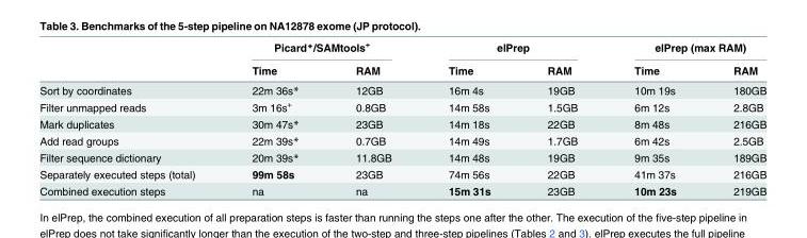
<table><thead><tr><td rowspan="2"></td><td colspan="2">Picard*/SAMtools<sup>+</sup></td><td colspan="2">elPrep</td><td colspan="2">elPrep (max RAM)</td></tr><tr><td>Time</td><td>RAM</td><td>Time</td><td>RAM</td><td>Time</td><td>RAM</td></tr></thead><tbody><tr><td>Sort by coordinates</td><td>22m 36s*</td><td>12GB</td><td>16m 4s</td><td>19GB</td><td>10m 19s</td><td>180GB</td></tr><tr><td>Filter unmapped reads</td><td>3m 16s<sup>+</sup></td><td>0.8GB</td><td>14m 58s</td><td>1.5GB</td><td>6m 12s</td><td>2.8GB</td></tr><tr><td>Mark duplicates</td><td>30m 47s*</td><td>23GB</td><td>14m 18s</td><td>22GB</td><td>8m 48s</td><td>216GB</td></tr><tr><td>Add read groups</td><td>22m 39s*</td><td>0.7GB</td><td>14m 49s</td><td>1.7GB</td><td>6m 42s</td><td>2.5GB</td></tr><tr><td>Filter sequence dictionary</td><td>20m 39s*</td><td>11.8GB</td><td>14m 48s</td><td>19GB</td><td>9m 35s</td><td>189GB</td></tr><tr><td>Separately executed steps (total)</td><td>99m 58s</td><td>23GB</td><td>74m 56s</td><td>22GB</td><td>41m 37s</td><td>216GB</td></tr><tr><td>Combined execution steps</td><td>na</td><td>na</td><td>15m 31s</td><td>23GB</td><td>10m 23s</td><td>219GB</td></tr></tbody></table>